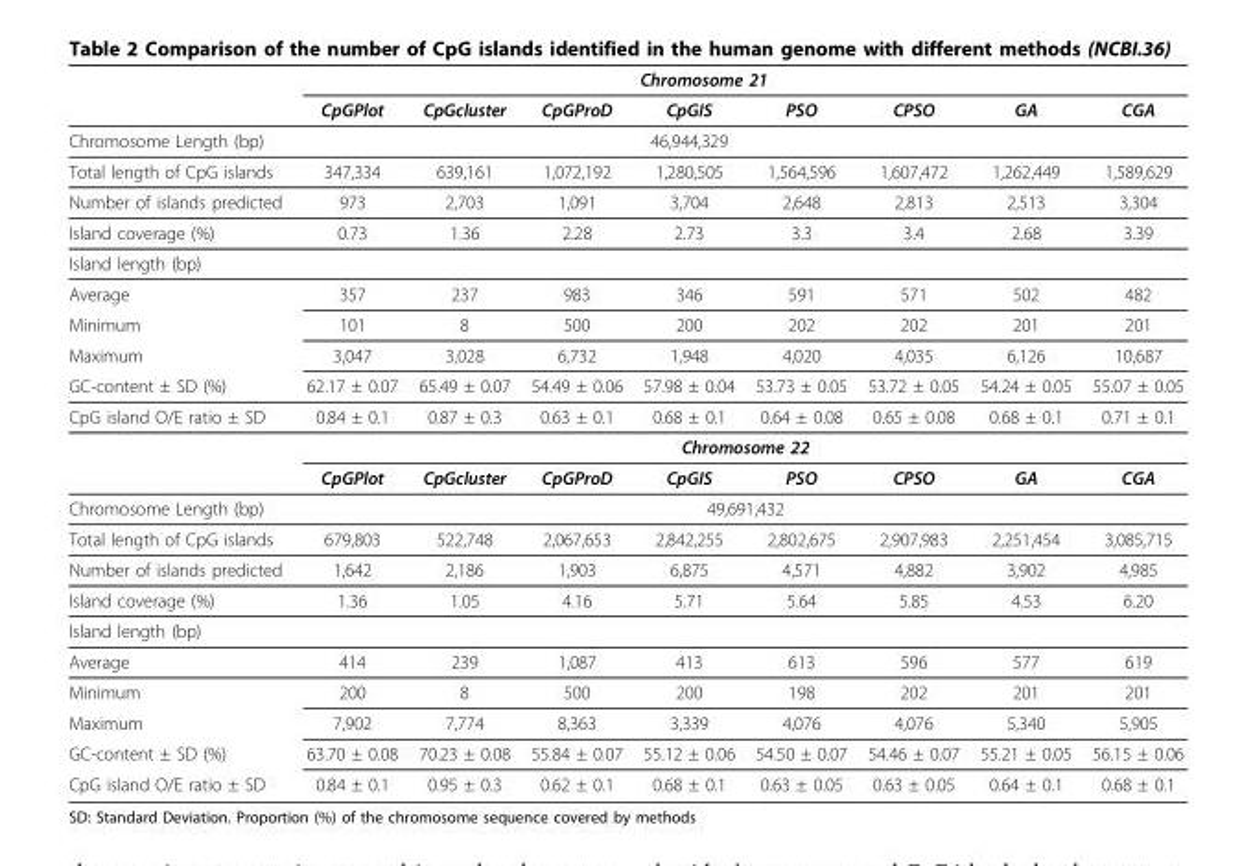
<table><thead><tr><td rowspan="2"></td><td rowspan="2">CpGPlot</td><td rowspan="2">CpGcluster</td><td rowspan="2">CpGProD</td><td colspan="2">Chromosome 21</td><td rowspan="2">CPSO</td><td rowspan="2">GA</td><td rowspan="2">CGA</td></tr><tr><td>CpGIS</td><td>PSO</td></tr></thead><tbody><tr><td>Chromosome Length (bp)</td><td></td><td></td><td></td><td>46,944,329</td><td></td><td></td><td></td><td></td></tr><tr><td>Total length of CpG islands</td><td>347,334</td><td>639,161</td><td>1,072,192</td><td>1,280,505</td><td>1,564,596</td><td>1,607,472</td><td>1,262,449</td><td>1,589,629</td></tr><tr><td>Number of islands predicted</td><td>973</td><td>2,703</td><td>1,091</td><td>3,704</td><td>2,648</td><td>2,813</td><td>2,513</td><td>3,304</td></tr><tr><td>Island coverage (%)</td><td>0.73</td><td>1.36</td><td>2.28</td><td>2.73</td><td>3.3</td><td>3.4</td><td>2.68</td><td>3.39</td></tr><tr><td colspan="9">Island length (bp)</td></tr><tr><td>Average</td><td>357</td><td>237</td><td>983</td><td>346</td><td>591</td><td>571</td><td>502</td><td>482</td></tr><tr><td>Minimum</td><td>101</td><td>8</td><td>500</td><td>200</td><td>202</td><td>202</td><td>201</td><td>201</td></tr><tr><td>Maximum</td><td>3,047</td><td>3,028</td><td>6,732</td><td>1,948</td><td>4,020</td><td>4,035</td><td>6,126</td><td>10,687</td></tr><tr><td>GC-content ± SD (%)</td><td>62.17 ± 0.07</td><td>65.49 ± 0.07</td><td>54.49 ± 0.06</td><td>57.98 ± 0.04</td><td>53.73 ± 0.05</td><td>53.72 ± 0.05</td><td>54.24 ± 0.05</td><td>55.07 ± 0.05</td></tr><tr><td rowspan="3">CpG island O/E ratio ± SD</td><td>0.84 ± 0.1</td><td>0.87 ± 0.3</td><td>0.63 ± 0.1</td><td>0.68 ± 0.1</td><td>0.64 ± 0.08</td><td>0.65 ± 0.08</td><td>0.68 ± 0.1</td><td>0.71 ± 0.1</td></tr><tr><td></td><td></td><td></td><td colspan="2">Chromosome 22</td><td></td><td></td><td></td></tr><tr><td>CpGPlot</td><td>CpGcluster</td><td>CpGProD</td><td>CpGIS</td><td>PSO</td><td>CPSO</td><td>GA</td><td>CGA</td></tr><tr><td>Chromosome Length (bp)</td><td></td><td></td><td></td><td colspan="2">49,691,432</td><td></td><td></td><td></td></tr><tr><td>Total length of CpG islands</td><td>679,803</td><td>522,748</td><td>2,067,653</td><td>2,842,255</td><td>2,802,675</td><td>2,907,983</td><td>2,251,454</td><td>3,085,715</td></tr><tr><td>Number of islands predicted</td><td>1,642</td><td>2,186</td><td>1,903</td><td>6,875</td><td>4,571</td><td>4,882</td><td>3,902</td><td>4,985</td></tr><tr><td>Island coverage (%)</td><td>1.36</td><td>1.05</td><td>4.16</td><td>5.71</td><td>5.64</td><td>5.85</td><td>4.53</td><td>6.20</td></tr><tr><td colspan="9">Island length (bp)</td></tr><tr><td>Average</td><td>414</td><td>239</td><td>1,087</td><td>413</td><td>613</td><td>596</td><td>577</td><td>619</td></tr><tr><td>Minimum</td><td>200</td><td>8</td><td>500</td><td>200</td><td>198</td><td>202</td><td>201</td><td>201</td></tr><tr><td>Maximum</td><td>7,902</td><td>7,774</td><td>8,363</td><td>3,339</td><td>4,076</td><td>4,076</td><td>5,340</td><td>5,905</td></tr><tr><td>GC-content ± SD (%)</td><td>63.70 ± 0.08</td><td>70.23 ± 0.08</td><td>55.84 ± 0.07</td><td>55.12 ± 0.06</td><td>54.50 ± 0.07</td><td>54.46 ± 0.07</td><td>55.21 ± 0.05</td><td>56.15 ± 0.06</td></tr><tr><td>CpG island O/E ratio ± SD</td><td>0.84 ± 0.1</td><td>0.95 ± 0.3</td><td>0.62 ± 0.1</td><td>0.68 ± 0.1</td><td>0.63 ± 0.05</td><td>0.63 ± 0.05</td><td>0.64 ± 0.1</td><td>0.68 ± 0.1</td></tr></tbody></table>